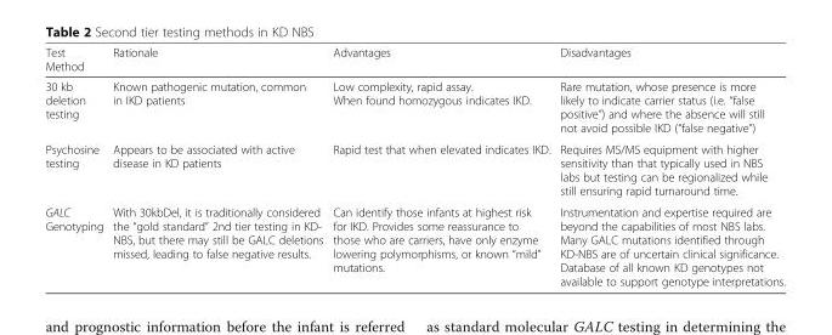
<table><thead><tr><td>Test Method</td><td>Rationale</td><td>Advantages</td><td>Disadvantages</td></tr></thead><tbody><tr><td>30 kb deletion testing</td><td>Known pathogenic mutation, common in IKD patients</td><td>Low complexity, rapid assay. When found homozygous indicates IKD.</td><td>Rare mutation, whose presence is more likely to indicate carrier status (i.e. “false positive”) and where the absence will still not avoid possible IKD (“false negative”)</td></tr><tr><td>Psychosine testing</td><td>Appears to be associated with active disease in KD patients</td><td>Rapid test that when elevated indicates IKD.</td><td>Requires MS/MS equipment with higher sensitivity than that typically used in NBS labs but testing can be regionalized while still ensuring rapid turnaround time.</td></tr><tr><td>GALC Genotyping</td><td>With 30kbDel, it is traditionally considered the “gold standard” 2nd tier testing in KD- NBS, but there may still be GALC deletions missed, leading to false negative results.</td><td>Can identify those infants at highest risk for IKD. Provides some reassurance to those who are carriers, have only enzyme lowering polymorphisms, or known “mild” mutations.</td><td>Instrumentation and expertise required are beyond the capabilities of most NBS labs. Many GALC mutations identified through KD-NBS are of uncertain clinical significance. Database of all known KD genotypes not available to support genotype interpretations.</td></tr></tbody></table>